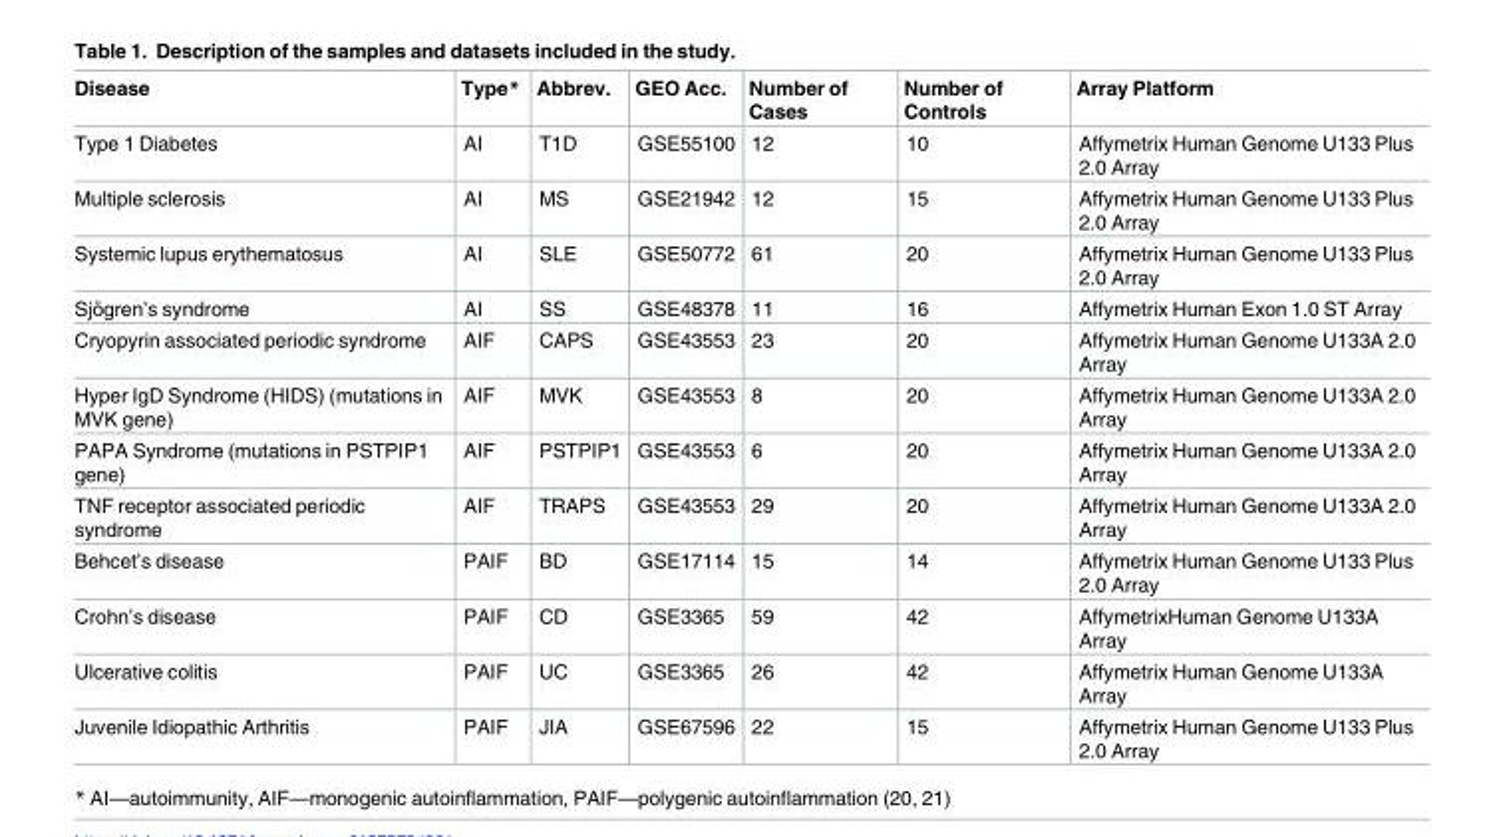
<table><thead><tr><td>Disease</td><td>Type*</td><td>Abbrev.</td><td>GEO Acc.</td><td>Number of Cases</td><td>Number of Controls</td><td>Array Platform</td></tr></thead><tbody><tr><td>Type 1 Diabetes</td><td>AI</td><td>T1D</td><td>GSE55100</td><td>12</td><td>10</td><td>Affymetrix Human Genome U133 Plus 2.0 Array</td></tr><tr><td>Multiple sclerosis</td><td>AI</td><td>MS</td><td>GSE21942</td><td>12</td><td>15</td><td>Affymetrix Human Genome U133 Plus 2.0 Array</td></tr><tr><td>Systemic lupus erythematosus</td><td>AI</td><td>SLE</td><td>GSE50772</td><td>61</td><td>20</td><td>Affymetrix Human Genome U133 Plus 2.0 Array</td></tr><tr><td>Sjo¨gren’s syndrome</td><td>AI</td><td>SS</td><td>GSE48378</td><td>11</td><td>16</td><td>Affymetrix Human Exon 1.0 ST Array</td></tr><tr><td>Cryopyrin associated periodic syndrome</td><td>AIF</td><td>CAPS</td><td>GSE43553</td><td>23</td><td>20</td><td>Affymetrix Human Genome U133A 2.0 Array</td></tr><tr><td>Hyper IgD Syndrome (HIDS) (mutations in MVK gene)</td><td>AIF</td><td>MVK</td><td>GSE43553</td><td>8</td><td>20</td><td>Affymetrix Human Genome U133A 2.0 Array</td></tr><tr><td>PAPA Syndrome (mutations in PSTPIP1 gene)</td><td>AIF</td><td>PSTPIP1</td><td>GSE43553</td><td>6</td><td>20</td><td>Affymetrix Human Genome U133A 2.0 Array</td></tr><tr><td>TNF receptor associated periodic syndrome</td><td>AIF</td><td>TRAPS</td><td>GSE43553</td><td>29</td><td>20</td><td>Affymetrix Human Genome U133A 2.0 Array</td></tr><tr><td>Behcet’s disease</td><td>PAIF</td><td>BD</td><td>GSE17114</td><td>15</td><td>14</td><td>Affymetrix Human Genome U133 Plus 2.0 Array</td></tr><tr><td>Crohn’s disease</td><td>PAIF</td><td>CD</td><td>GSE3365</td><td>59</td><td>42</td><td>AffymetrixHuman Genome U133A Array</td></tr><tr><td>Ulcerative colitis</td><td>PAIF</td><td>UC</td><td>GSE3365</td><td>26</td><td>42</td><td>Affymetrix Human Genome U133A Array</td></tr><tr><td>Juvenile Idiopathic Arthritis</td><td>PAIF</td><td>JIA</td><td>GSE67596</td><td>22</td><td>15</td><td>Affymetrix Human Genome U133 Plus 2.0 Array</td></tr></tbody></table>